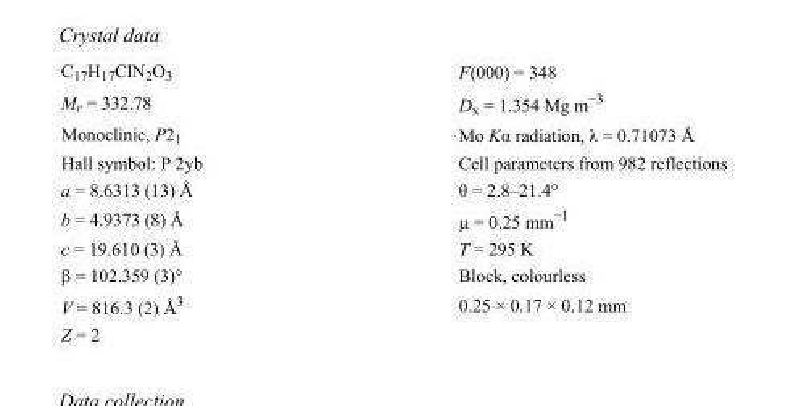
<table><tbody><tr><td>C<sub>17</sub>H<sub>17</sub>ClN<sub>2</sub>O<sub>3</sub></td><td>F(000) = 348</td></tr><tr><td>M<sub>r</sub> = 332.78</td><td>D<sub>x</sub> = 1.354 Mg m<sup>−3</sup></td></tr><tr><td>Monoclinic, P2<sub>1</sub></td><td>Mo Kα radiation, λ = 0.71073 Å</td></tr><tr><td>Hall symbol: P 2yb</td><td>Cell parameters from 982 reflections</td></tr><tr><td>a = 8.6313 (13) Å</td><td>θ = 2.8–21.4°</td></tr><tr><td>b = 4.9373 (8) Å</td><td>µ = 0.25 mm<sup>−1</sup></td></tr><tr><td>c = 19.610 (3) Å</td><td>T = 295 K</td></tr><tr><td>β = 102.359 (3)°</td><td>Block, colourless</td></tr><tr><td>V = 816.3 (2) Å<sup>3</sup></td><td>0.25 × 0.17 × 0.12 mm</td></tr><tr><td>Z = 2</td><td></td></tr></tbody></table>